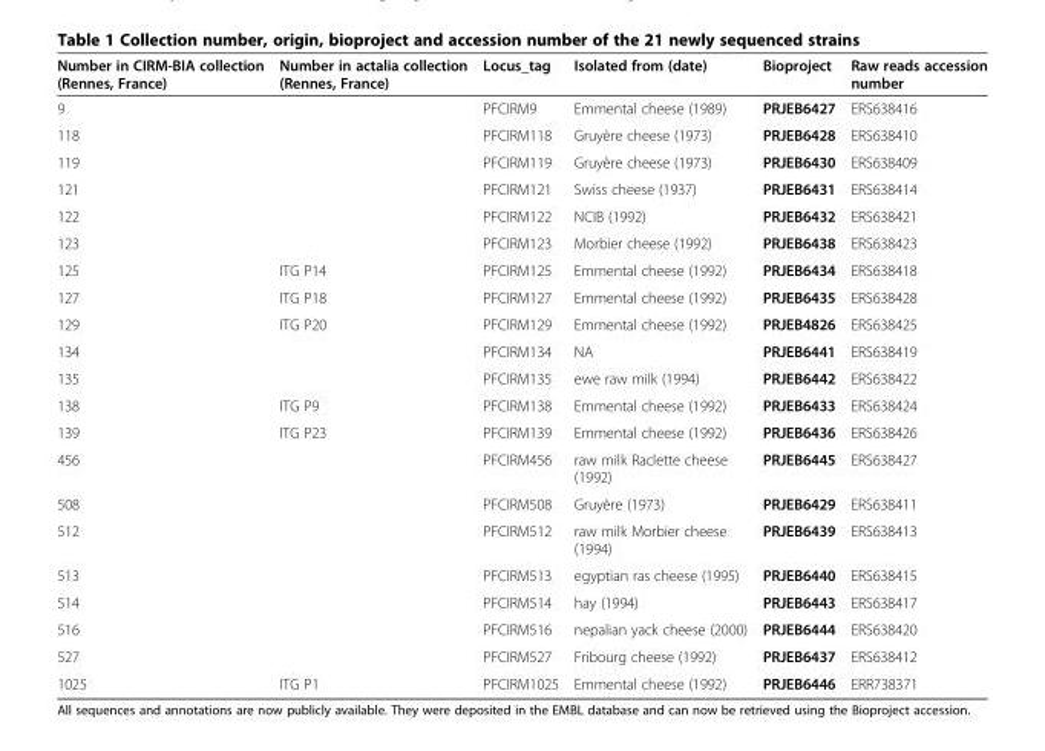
<table><thead><tr><td>Number in CIRM-BIA collection (Rennes, France)</td><td>Number in actalia collection (Rennes, France)</td><td>Locus_tag</td><td>Isolated from (date)</td><td>Bioproject</td><td>Raw reads accession number</td></tr></thead><tbody><tr><td>9</td><td></td><td>PFCIRM9</td><td>Emmental cheese (1989)</td><td>PRJEB6427</td><td>ERS638416</td></tr><tr><td>118</td><td></td><td>PFCIRM118</td><td>Gruyère cheese (1973)</td><td>PRJEB6428</td><td>ERS638410</td></tr><tr><td>119</td><td></td><td>PFCIRM119</td><td>Gruyère cheese (1973)</td><td>PRJEB6430</td><td>ERS638409</td></tr><tr><td>121</td><td></td><td>PFCIRM121</td><td>Swiss cheese (1937)</td><td>PRJEB6431</td><td>ERS638414</td></tr><tr><td>122</td><td></td><td>PFCIRM122</td><td>NCIB (1992)</td><td>PRJEB6432</td><td>ERS638421</td></tr><tr><td>123</td><td></td><td>PFCIRM123</td><td>Morbier cheese (1992)</td><td>PRJEB6438</td><td>ERS638423</td></tr><tr><td>125</td><td>ITG P14</td><td>PFCIRM125</td><td>Emmental cheese (1992)</td><td>PRJEB6434</td><td>ERS638418</td></tr><tr><td>127</td><td>ITG P18</td><td>PFCIRM127</td><td>Emmental cheese (1992)</td><td>PRJEB6435</td><td>ERS638428</td></tr><tr><td>129</td><td>ITG P20</td><td>PFCIRM129</td><td>Emmental cheese (1992)</td><td>PRJEB4826</td><td>ERS638425</td></tr><tr><td>134</td><td></td><td>PFCIRM134</td><td>NA</td><td>PRJEB6441</td><td>ERS638419</td></tr><tr><td>135</td><td></td><td>PFCIRM135</td><td>ewe raw milk (1994)</td><td>PRJEB6442</td><td>ERS638422</td></tr><tr><td>138</td><td>ITG P9</td><td>PFCIRM138</td><td>Emmental cheese (1992)</td><td>PRJEB6433</td><td>ERS638424</td></tr><tr><td>139</td><td>ITG P23</td><td>PFCIRM139</td><td>Emmental cheese (1992)</td><td>PRJEB6436</td><td>ERS638426</td></tr><tr><td>456</td><td></td><td>PFCIRM456</td><td>raw milk Raclette cheese (1992)</td><td>PRJEB6445</td><td>ERS638427</td></tr><tr><td>508</td><td></td><td>PFCIRM508</td><td>Gruyère (1973)</td><td>PRJEB6429</td><td>ERS638411</td></tr><tr><td>512</td><td></td><td>PFCIRM512</td><td>raw milk Morbier cheese (1994)</td><td>PRJEB6439</td><td>ERS638413</td></tr><tr><td>513</td><td></td><td>PFCIRM513</td><td>egyptian ras cheese (1995)</td><td>PRJEB6440</td><td>ERS638415</td></tr><tr><td>514</td><td></td><td>PFCIRM514</td><td>hay (1994)</td><td>PRJEB6443</td><td>ERS638417</td></tr><tr><td>516</td><td></td><td>PFCIRM516</td><td>nepalian yack cheese (2000)</td><td>PRJEB6444</td><td>ERS638420</td></tr><tr><td>527</td><td></td><td>PFCIRM527</td><td>Fribourg cheese (1992)</td><td>PRJEB6437</td><td>ERS638412</td></tr><tr><td>1025</td><td>ITG P1</td><td>PFCIRM1025</td><td>Emmental cheese (1992)</td><td>PRJEB6446</td><td>ERR738371</td></tr></tbody></table>